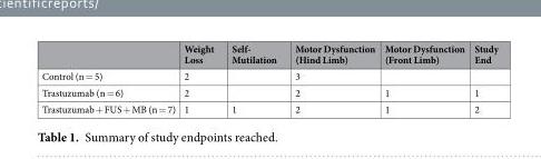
<table><thead><tr><td></td><td>Weight Loss</td><td>Self- Mutilation</td><td>Motor Dysfunction (Hind Limb)</td><td>Motor Dysfunction (Front Limb)</td><td>Study End</td></tr></thead><tbody><tr><td>Control (n = 5)</td><td>2</td><td></td><td>3</td><td></td><td></td></tr><tr><td>Trastuzumab (n = 6)</td><td>2</td><td></td><td>2</td><td>1</td><td>1</td></tr><tr><td>Trastuzumab + FUS + MB (n = 7)</td><td>1</td><td>1</td><td>2</td><td>1</td><td>2</td></tr></tbody></table>